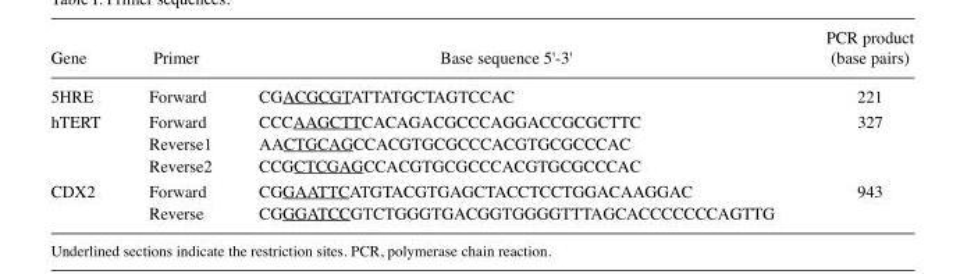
<table><thead><tr><td>Gene</td><td>Primer</td><td>Base sequence 5&#x27;‑3&#x27;</td><td>(base pairs)</td></tr></thead><tbody><tr><td>5HRE</td><td>Forward</td><td>CGACGCGTATTATGCTAGTCCAC</td><td>221</td></tr><tr><td rowspan="3">hTERT</td><td>Forward</td><td>CCCAAGCTTCACAGACGCCCAGGACCGCGCTTC</td><td>327</td></tr><tr><td>Reverse1</td><td>AACTGCAGCCACGTGCGCCCACGTGCGCCCAC</td><td></td></tr><tr><td>Reverse2</td><td>CCGCTCGAGCCACGTGCGCCCACGTGCGCCCAC</td><td></td></tr><tr><td rowspan="2">CDX2</td><td>Forward</td><td>CGGAATTCATGTACGTGAGCTACCTCCTGGACAAGGAC</td><td>943</td></tr><tr><td>Reverse</td><td>CGGGATCCGTCTGGGTGACGGTGGGGTTTAGCACCCCCCCAGTTG</td><td></td></tr></tbody></table>